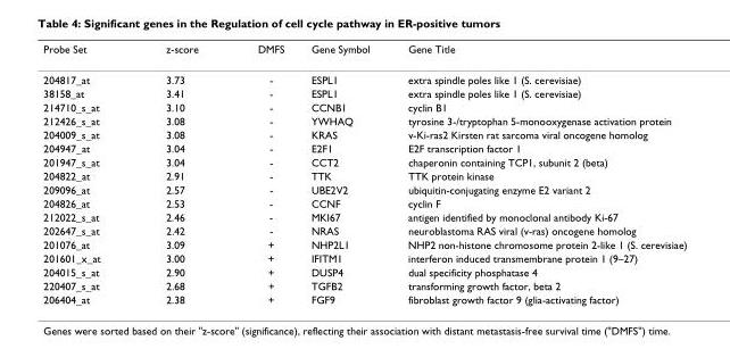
<table><thead><tr><td>Probe Set</td><td>z-score</td><td>DMFS</td><td>Gene Symbol</td><td>Gene Title</td></tr></thead><tbody><tr><td>204817_at</td><td>3.73</td><td>-</td><td>ESPL1</td><td>extra spindle poles like 1 (S. cerevisiae)</td></tr><tr><td>38158_at</td><td>3.41</td><td>-</td><td>ESPL1</td><td>extra spindle poles like 1 (S. cerevisiae)</td></tr><tr><td>214710_s_at</td><td>3.10</td><td>-</td><td>CCNB1</td><td>cyclin B1</td></tr><tr><td>212426_s_at</td><td>3.08</td><td>-</td><td>YWHAQ</td><td>tyrosine 3-/tryptophan 5-monooxygenase activation protein</td></tr><tr><td>204009_s_at</td><td>3.08</td><td>-</td><td>KRAS</td><td>v-Ki-ras2 Kirsten rat sarcoma viral oncogene homolog</td></tr><tr><td>204947_at</td><td>3.04</td><td>-</td><td>E2F1</td><td>E2F transcription factor 1</td></tr><tr><td>201947_s_at</td><td>3.04</td><td>-</td><td>CCT2</td><td>chaperonin containing TCP1, subunit 2 (beta)</td></tr><tr><td>204822_at</td><td>2.91</td><td>-</td><td>TTK</td><td>TTK protein kinase</td></tr><tr><td>209096_at</td><td>2.57</td><td>-</td><td>UBE2V2</td><td>ubiquitin-conjugating enzyme E2 variant 2</td></tr><tr><td>204826_at</td><td>2.53</td><td>-</td><td>CCNF</td><td>cyclin F</td></tr><tr><td>212022_s_at</td><td>2.46</td><td>-</td><td>MKI67</td><td>antigen identified by monoclonal antibody Ki-67</td></tr><tr><td>202647_s_at</td><td>2.42</td><td>-</td><td>NRAS</td><td>neuroblastoma RAS viral (v-ras) oncogene homolog</td></tr><tr><td>201076_at</td><td>3.09</td><td>+</td><td>NHP2L1</td><td>NHP2 non-histone chromosome protein 2-like 1 (S. cerevisiae)</td></tr><tr><td>201601_x_at</td><td>3.00</td><td>+</td><td>IFITM1</td><td>interferon induced transmembrane protein 1 (9–27)</td></tr><tr><td>204015_s_at</td><td>2.90</td><td>+</td><td>DUSP4</td><td>dual specificity phosphatase 4</td></tr><tr><td>220407_s_at</td><td>2.68</td><td>+</td><td>TGFB2</td><td>transforming growth factor, beta 2</td></tr><tr><td>206404_at</td><td>2.38</td><td>+</td><td>FGF9</td><td>fibroblast growth factor 9 (glia-activating factor)</td></tr></tbody></table>